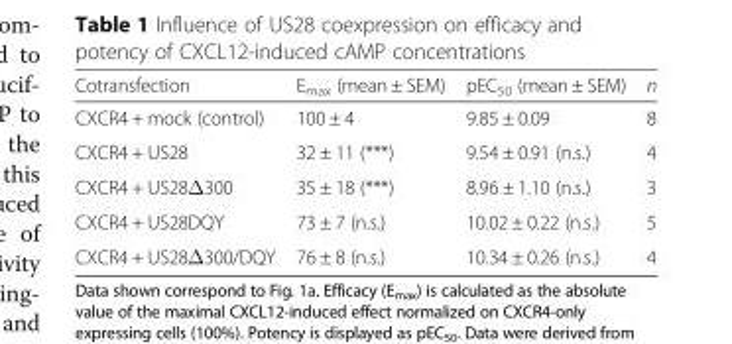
<table><thead><tr><td>Cotransfection</td><td>E<sub>max</sub> (mean ± SEM)</td><td>pEC<sub>50</sub> (mean ± SEM)</td><td>n</td></tr></thead><tbody><tr><td>CXCR4 + mock (control)</td><td>100 ± 4</td><td>9.85 ± 0.09</td><td>8</td></tr><tr><td>CXCR4 + US28</td><td>32 ± 11 (***)</td><td>9.54 ± 0.91 (n.s.)</td><td>4</td></tr><tr><td>CXCR4 + US28Δ300</td><td>35 ± 18 (***)</td><td>8.96 ± 1.10 (n.s.)</td><td>3</td></tr><tr><td>CXCR4 + US28DQY</td><td>73 ± 7 (n.s.)</td><td>10.02 ± 0.22 (n.s.)</td><td>5</td></tr><tr><td>CXCR4 + US28Δ300/DQY</td><td>76 ± 8 (n.s.)</td><td>10.34 ± 0.26 (n.s.)</td><td>4</td></tr></tbody></table>